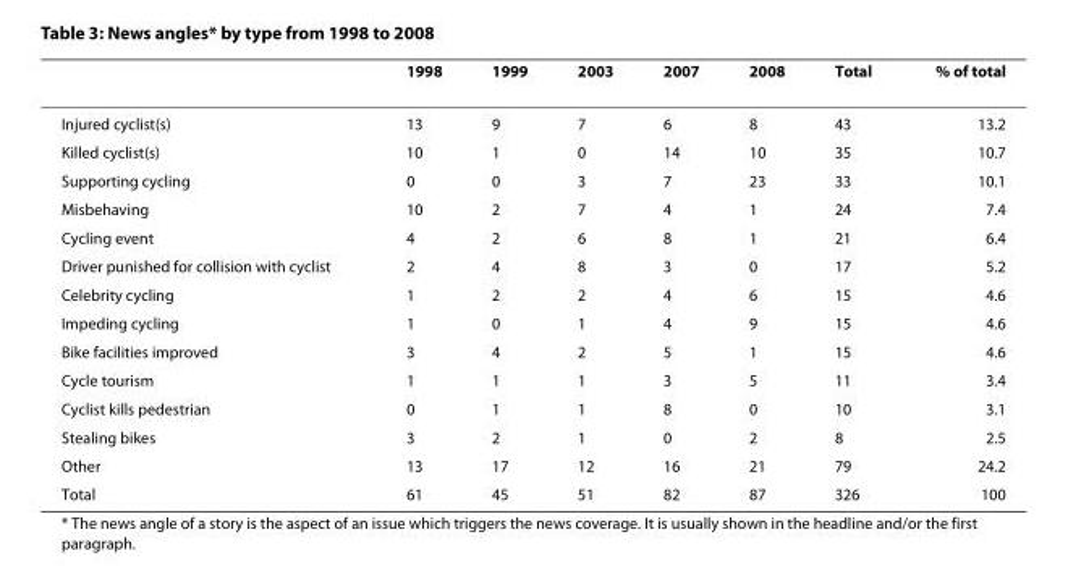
<table><thead><tr><td></td><td>1998</td><td>1999</td><td>2003</td><td>2007</td><td>2008</td><td>Total</td><td>% of total</td></tr></thead><tbody><tr><td>Injured cyclist(s)</td><td>13</td><td>9</td><td>7</td><td>6</td><td>8</td><td>43</td><td>13.2</td></tr><tr><td>Killed cyclist(s)</td><td>10</td><td>1</td><td>0</td><td>14</td><td>10</td><td>35</td><td>10.7</td></tr><tr><td>Supporting cycling</td><td>0</td><td>0</td><td>3</td><td>7</td><td>23</td><td>33</td><td>10.1</td></tr><tr><td>Misbehaving</td><td>10</td><td>2</td><td>7</td><td>4</td><td>1</td><td>24</td><td>7.4</td></tr><tr><td>Cycling event</td><td>4</td><td>2</td><td>6</td><td>8</td><td>1</td><td>21</td><td>6.4</td></tr><tr><td>Driver punished for collision with cyclist</td><td>2</td><td>4</td><td>8</td><td>3</td><td>0</td><td>17</td><td>5.2</td></tr><tr><td>Celebrity cycling</td><td>1</td><td>2</td><td>2</td><td>4</td><td>6</td><td>15</td><td>4.6</td></tr><tr><td>Impeding cycling</td><td>1</td><td>0</td><td>1</td><td>4</td><td>9</td><td>15</td><td>4.6</td></tr><tr><td>Bike facilities improved</td><td>3</td><td>4</td><td>2</td><td>5</td><td>1</td><td>15</td><td>4.6</td></tr><tr><td>Cycle tourism</td><td>1</td><td>1</td><td>1</td><td>3</td><td>5</td><td>11</td><td>3.4</td></tr><tr><td>Cyclist kills pedestrian</td><td>0</td><td>1</td><td>1</td><td>8</td><td>0</td><td>10</td><td>3.1</td></tr><tr><td>Stealing bikes</td><td>3</td><td>2</td><td>1</td><td>0</td><td>2</td><td>8</td><td>2.5</td></tr><tr><td>Other</td><td>13</td><td>17</td><td>12</td><td>16</td><td>21</td><td>79</td><td>24.2</td></tr><tr><td>Total</td><td>61</td><td>45</td><td>51</td><td>82</td><td>87</td><td>326</td><td>100</td></tr></tbody></table>